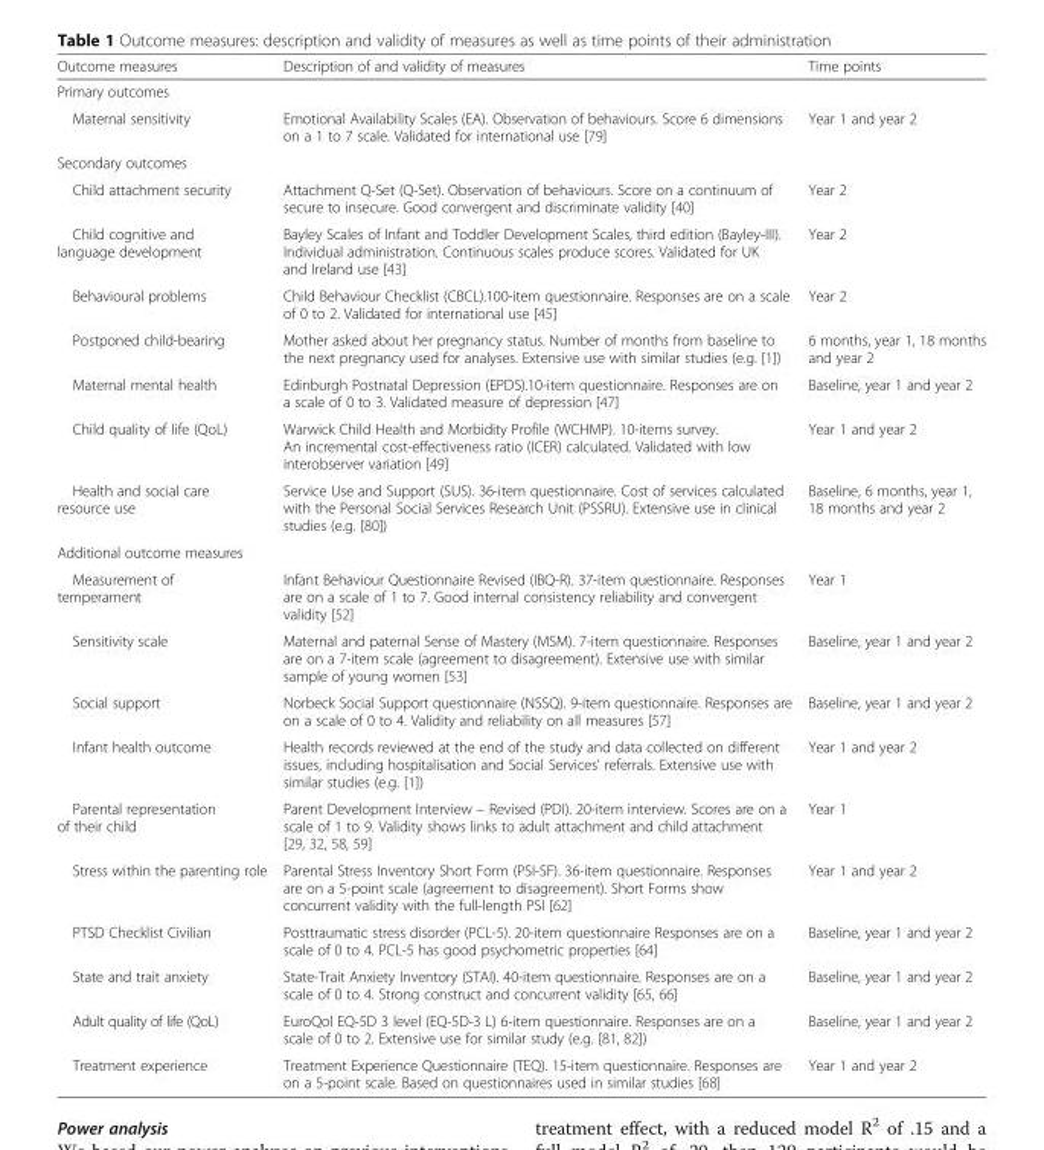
<table><thead><tr><td>Outcome measures</td><td>Description of and validity of measures</td><td>Time points</td></tr></thead><tbody><tr><td colspan="3">Primary outcomes</td></tr><tr><td>Maternal sensitivity</td><td>Emotional Availability Scales (EA). Observation of behaviours. Score 6 dimensions on a 1 to 7 scale. Validated for international use [79]</td><td>Year 1 and year 2</td></tr><tr><td colspan="3">Secondary outcomes</td></tr><tr><td>Child attachment security</td><td>Attachment Q-Set (Q-Set). Observation of behaviours. Score on a continuum of secure to insecure. Good convergent and discriminate validity [40]</td><td>Year 2</td></tr><tr><td>Child cognitive and language development</td><td>Bayley Scales of Infant and Toddler Development Scales, third edition (Bayley-III). Individual administration. Continuous scales produce scores. Validated for UK and Ireland use [43]</td><td>Year 2</td></tr><tr><td>Behavioural problems</td><td>Child Behaviour Checklist (CBCL).100-item questionnaire. Responses are on a scale of 0 to 2. Validated for international use [45]</td><td>Year 2</td></tr><tr><td>Postponed child-bearing</td><td>Mother asked about her pregnancy status. Number of months from baseline to the next pregnancy used for analyses. Extensive use with similar studies (e.g. [1])</td><td>6 months, year 1, 18 months and year 2</td></tr><tr><td>Maternal mental health</td><td>Edinburgh Postnatal Depression (EPDS).10-item questionnaire. Responses are on a scale of 0 to 3. Validated measure of depression [47]</td><td>Baseline, year 1 and year 2</td></tr><tr><td>Child quality of life (QoL)</td><td>Warwick Child Health and Morbidity Profile (WCHMP). 10-items survey. An incremental cost-effectiveness ratio (ICER) calculated. Validated with low interobserver variation [49]</td><td>Year 1 and year 2</td></tr><tr><td>Health and social care resource use</td><td>Service Use and Support (SUS). 36-item questionnaire. Cost of services calculated with the Personal Social Services Research Unit (PSSRU). Extensive use in clinical studies (e.g. [80])</td><td>Baseline, 6 months, year 1, 18 months and year 2</td></tr><tr><td colspan="3">Additional outcome measures</td></tr><tr><td>Measurement of temperament</td><td>Infant Behaviour Questionnaire Revised (IBQ-R). 37-item questionnaire. Responses are on a scale of 1 to 7. Good internal consistency reliability and convergent validity [52]</td><td>Year 1</td></tr><tr><td>Sensitivity scale</td><td>Maternal and paternal Sense of Mastery (MSM). 7-item questionnaire. Responses are on a 7-item scale (agreement to disagreement). Extensive use with similar sample of young women [53]</td><td>Baseline, year 1 and year 2</td></tr><tr><td>Social support</td><td>Norbeck Social Support questionnaire (NSSQ). 9-item questionnaire. Responses are on a scale of 0 to 4. Validity and reliability on all measures [57]</td><td>Baseline, year 1 and year 2</td></tr><tr><td>Infant health outcome</td><td>Health records reviewed at the end of the study and data collected on different issues, including hospitalisation and Social Services’ referrals. Extensive use with similar studies (e.g. [1])</td><td>Year 1 and year 2</td></tr><tr><td>Parental representation of their child</td><td>Parent Development Interview – Revised (PDI). 20-item interview. Scores are on a scale of 1 to 9. Validity shows links to adult attachment and child attachment [29, 32, 58, 59]</td><td>Year 1</td></tr><tr><td>Stress within the parenting role</td><td>Parental Stress Inventory Short Form (PSI-SF). 36-item questionnaire. Responses are on a 5-point scale (agreement to disagreement). Short Forms show concurrent validity with the full-length PSI [62]</td><td>Year 1 and year 2</td></tr><tr><td>PTSD Checklist Civilian</td><td>Posttraumatic stress disorder (PCL-5). 20-item questionnaire Responses are on a scale of 0 to 4. PCL-5 has good psychometric properties [64]</td><td>Baseline, year 1 and year 2</td></tr><tr><td>State and trait anxiety</td><td>State-Trait Anxiety Inventory (STAI). 40-item questionnaire. Responses are on a scale of 0 to 4. Strong construct and concurrent validity [65, 66]</td><td>Baseline, year 1 and year 2</td></tr><tr><td>Adult quality of life (QoL)</td><td>EuroQol EQ-5D 3 level (EQ-5D-3 L) 6-item questionnaire. Responses are on a scale of 0 to 2. Extensive use for similar study (e.g. [81, 82])</td><td>Baseline, year 1 and year 2</td></tr><tr><td>Treatment experience</td><td>Treatment Experience Questionnaire (TEQ). 15-item questionnaire. Responses are on a 5-point scale. Based on questionnaires used in similar studies [68]</td><td>Year 1 and year 2</td></tr></tbody></table>